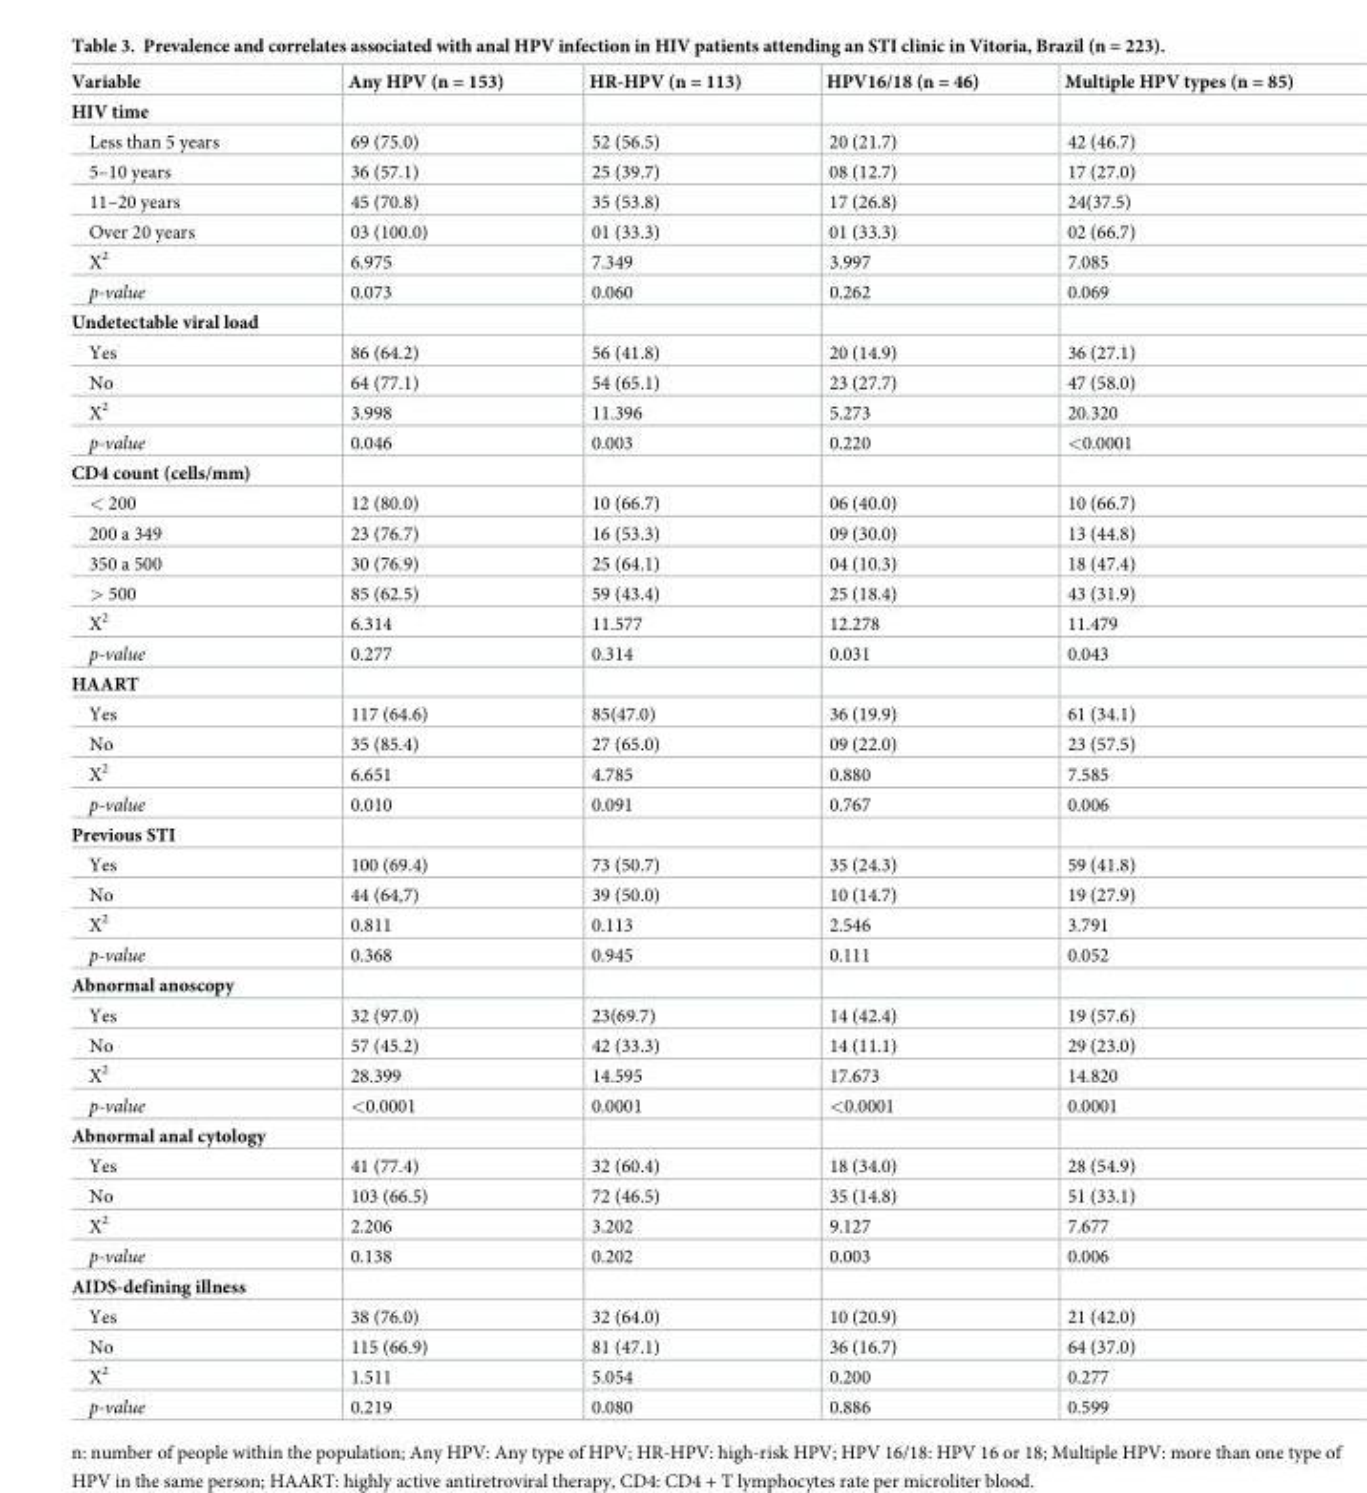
<table><thead><tr><td>Variable</td><td>Any HPV (n = 153)</td><td>HR-HPV (n = 113)</td><td>HPV16/18 (n = 46)</td><td>Multiple HPV types (n = 85)</td></tr></thead><tbody><tr><td colspan="5">HIV time</td></tr><tr><td>Less than 5 years</td><td>69 (75.0)</td><td>52 (56.5)</td><td>20 (21.7)</td><td>42 (46.7)</td></tr><tr><td>5–10 years</td><td>36 (57.1)</td><td>25 (39.7)</td><td>08 (12.7)</td><td>17 (27.0)</td></tr><tr><td>11–20 years</td><td>45 (70.8)</td><td>35 (53.8)</td><td>17 (26.8)</td><td>24(37.5)</td></tr><tr><td>Over 20 years</td><td>03 (100.0)</td><td>01 (33.3)</td><td>01 (33.3)</td><td>02 (66.7)</td></tr><tr><td>X<sup>2</sup></td><td>6.975</td><td>7.349</td><td>3.997</td><td>7.085</td></tr><tr><td>p-value</td><td>0.073</td><td>0.060</td><td>0.262</td><td>0.069</td></tr><tr><td colspan="5">Undetectable viral load</td></tr><tr><td>Yes</td><td>86 (64.2)</td><td>56 (41.8)</td><td>20 (14.9)</td><td>36 (27.1)</td></tr><tr><td>No</td><td>64 (77.1)</td><td>54 (65.1)</td><td>23 (27.7)</td><td>47 (58.0)</td></tr><tr><td>X<sup>2</sup></td><td>3.998</td><td>11.396</td><td>5.273</td><td>20.320</td></tr><tr><td>p-value</td><td>0.046</td><td>0.003</td><td>0.220</td><td>&lt;0.0001</td></tr><tr><td colspan="5">CD4 count (cells/mm)</td></tr><tr><td>&lt; 200</td><td>12 (80.0)</td><td>10 (66.7)</td><td>06 (40.0)</td><td>10 (66.7)</td></tr><tr><td>200 a 349</td><td>23 (76.7)</td><td>16 (53.3)</td><td>09 (30.0)</td><td>13 (44.8)</td></tr><tr><td>350 a 500</td><td>30 (76.9)</td><td>25 (64.1)</td><td>04 (10.3)</td><td>18 (47.4)</td></tr><tr><td>&gt; 500</td><td>85 (62.5)</td><td>59 (43.4)</td><td>25 (18.4)</td><td>43 (31.9)</td></tr><tr><td>X<sup>2</sup></td><td>6.314</td><td>11.577</td><td>12.278</td><td>11.479</td></tr><tr><td>p-value</td><td>0.277</td><td>0.314</td><td>0.031</td><td>0.043</td></tr><tr><td colspan="5">HAART</td></tr><tr><td>Yes</td><td>117 (64.6)</td><td>85(47.0)</td><td>36 (19.9)</td><td>61 (34.1)</td></tr><tr><td>No</td><td>35 (85.4)</td><td>27 (65.0)</td><td>09 (22.0)</td><td>23 (57.5)</td></tr><tr><td>X<sup>2</sup></td><td>6.651</td><td>4.785</td><td>0.880</td><td>7.585</td></tr><tr><td>p-value</td><td>0.010</td><td>0.091</td><td>0.767</td><td>0.006</td></tr><tr><td colspan="5">Previous STI</td></tr><tr><td>Yes</td><td>100 (69.4)</td><td>73 (50.7)</td><td>35 (24.3)</td><td>59 (41.8)</td></tr><tr><td>No</td><td>44 (64,7)</td><td>39 (50.0)</td><td>10 (14.7)</td><td>19 (27.9)</td></tr><tr><td>X<sup>2</sup></td><td>0.811</td><td>0.113</td><td>2.546</td><td>3.791</td></tr><tr><td>p-value</td><td>0.368</td><td>0.945</td><td>0.111</td><td>0.052</td></tr><tr><td colspan="5">Abnormal anoscopy</td></tr><tr><td>Yes</td><td>32 (97.0)</td><td>23(69.7)</td><td>14 (42.4)</td><td>19 (57.6)</td></tr><tr><td>No</td><td>57 (45.2)</td><td>42 (33.3)</td><td>14 (11.1)</td><td>29 (23.0)</td></tr><tr><td>X<sup>2</sup></td><td>28.399</td><td>14.595</td><td>17.673</td><td>14.820</td></tr><tr><td>p-value</td><td>&lt;0.0001</td><td>0.0001</td><td>&lt;0.0001</td><td>0.0001</td></tr><tr><td colspan="5">Abnormal anal cytology</td></tr><tr><td>Yes</td><td>41 (77.4)</td><td>32 (60.4)</td><td>18 (34.0)</td><td>28 (54.9)</td></tr><tr><td>No</td><td>103 (66.5)</td><td>72 (46.5)</td><td>35 (14.8)</td><td>51 (33.1)</td></tr><tr><td>X<sup>2</sup></td><td>2.206</td><td>3.202</td><td>9.127</td><td>7.677</td></tr><tr><td>p-value</td><td>0.138</td><td>0.202</td><td>0.003</td><td>0.006</td></tr><tr><td colspan="5">AIDS-defining illness</td></tr><tr><td>Yes</td><td>38 (76.0)</td><td>32 (64.0)</td><td>10 (20.9)</td><td>21 (42.0)</td></tr><tr><td>No</td><td>115 (66.9)</td><td>81 (47.1)</td><td>36 (16.7)</td><td>64 (37.0)</td></tr><tr><td>X<sup>2</sup></td><td>1.511</td><td>5.054</td><td>0.200</td><td>0.277</td></tr><tr><td>p-value</td><td>0.219</td><td>0.080</td><td>0.886</td><td>0.599</td></tr></tbody></table>